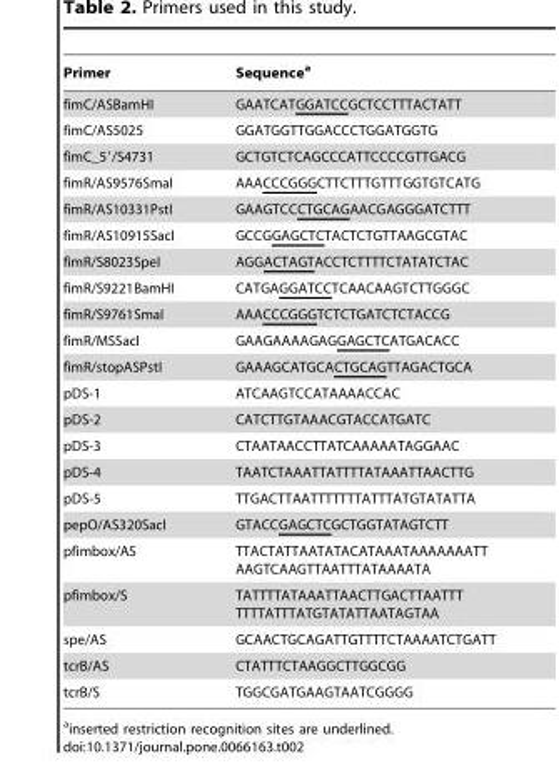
<table><thead><tr><td>Primer</td><td>Sequence<sup>a</sup></td></tr></thead><tbody><tr><td>fimC/ASBamHI</td><td>GAATCATGGATCCGCTCCTTTACTATT</td></tr><tr><td>fimC/AS5025</td><td>GGATGGTTGGACCCTGGATGGTG</td></tr><tr><td>fimC_5′/S4731</td><td>GCTGTCTCAGCCCATTCCCCGTTGACG</td></tr><tr><td>fimR/AS9576SmaI</td><td>AAACCCGGGCTTCTTTGTTTGGTGTCATG</td></tr><tr><td>fimR/AS10331PstI</td><td>GAAGTCCCTGCAGAACGAGGGATCTTT</td></tr><tr><td>fimR/AS10915SacI</td><td>GCCGGAGCTCTACTCTGTTAAGCGTAC</td></tr><tr><td>fimR/S8023SpeI</td><td>AGGACTAGTACCTCTTTTCTATATCTAC</td></tr><tr><td>fimR/S9221BamHI</td><td>CATGAGGATCCTCAACAAGTCTTGGGC</td></tr><tr><td>fimR/S9761SmaI</td><td>AAACCCGGGTCTCTGATCTCTACCG</td></tr><tr><td>fimR/MSSacI</td><td>GAAGAAAAGAGGAGCTCATGACACC</td></tr><tr><td>fimR/stopASPstI</td><td>GAAAGCATGCACTGCAGTTAGACTGCA</td></tr><tr><td>pDS-1</td><td>ATCAAGTCCATAAAACCAC</td></tr><tr><td>pDS-2</td><td>CATCTTGTAAACGTACCATGATC</td></tr><tr><td>pDS-3</td><td>CTAATAACCTTATCAAAAATAGGAAC</td></tr><tr><td>pDS-4</td><td>TAATCTAAATTATTTTATAAATTAACTTG</td></tr><tr><td>pDS-5</td><td>TTGACTTAATTTTTTTATTTATGTATATTA</td></tr><tr><td>pepO/AS320SacI</td><td>GTACCGAGCTCGCTGGTATAGTCTT</td></tr><tr><td>pfimbox/AS</td><td>TTACTATTAATATACATAAATAAAAAAATT AAGTCAAGTTAATTTATAAAATA</td></tr><tr><td>pfimbox/S</td><td>TATTTTATAAATTAACTTGACTTAATTT TTTTATTTATGTATATTAATAGTAA</td></tr><tr><td>spe/AS</td><td>GCAACTGCAGATTGTTTTCTAAAATCTGATT</td></tr><tr><td>tcrB/AS</td><td>CTATTTCTAAGGCTTGGCGG</td></tr><tr><td>tcrB/S</td><td>TGGCGATGAAGTAATCGGGG</td></tr></tbody></table>